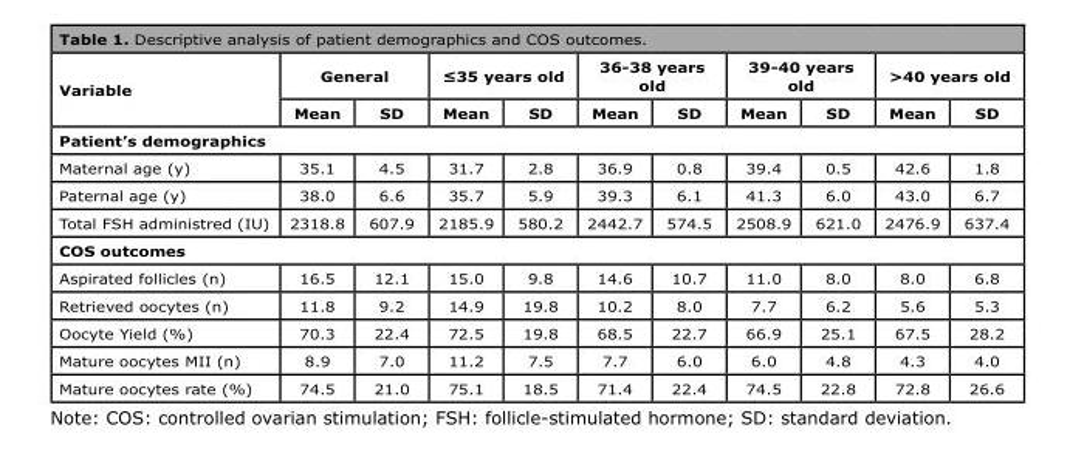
<table><thead><tr><td rowspan="2">Variable</td><td colspan="2">General</td><td colspan="2">≤35 years old</td><td colspan="2">36-38 years old</td><td colspan="2">39-40 years old</td><td colspan="2">&gt;40 years old</td></tr><tr><td>Mean</td><td>SD</td><td>Mean</td><td>SD</td><td>Mean</td><td>SD</td><td>Mean</td><td>SD</td><td>Mean</td><td>SD</td></tr></thead><tbody><tr><td colspan="11">Patient’s demographics</td></tr><tr><td>Maternal age (y)</td><td>35.1</td><td>4.5</td><td>31.7</td><td>2.8</td><td>36.9</td><td>0.8</td><td>39.4</td><td>0.5</td><td>42.6</td><td>1.8</td></tr><tr><td>Paternal age (y)</td><td>38.0</td><td>6.6</td><td>35.7</td><td>5.9</td><td>39.3</td><td>6.1</td><td>41.3</td><td>6.0</td><td>43.0</td><td>6.7</td></tr><tr><td>Total FSH administred (IU)</td><td>2318.8</td><td>607.9</td><td>2185.9</td><td>580.2</td><td>2442.7</td><td>574.5</td><td>2508.9</td><td>621.0</td><td>2476.9</td><td>637.4</td></tr><tr><td colspan="11">COS outcomes</td></tr><tr><td>Aspirated follicles (n)</td><td>16.5</td><td>12.1</td><td>15.0</td><td>9.8</td><td>14.6</td><td>10.7</td><td>11.0</td><td>8.0</td><td>8.0</td><td>6.8</td></tr><tr><td>Retrieved oocytes (n)</td><td>11.8</td><td>9.2</td><td>14.9</td><td>19.8</td><td>10.2</td><td>8.0</td><td>7.7</td><td>6.2</td><td>5.6</td><td>5.3</td></tr><tr><td>Oocyte Yield (%)</td><td>70.3</td><td>22.4</td><td>72.5</td><td>19.8</td><td>68.5</td><td>22.7</td><td>66.9</td><td>25.1</td><td>67.5</td><td>28.2</td></tr><tr><td>Mature oocytes MII (n)</td><td>8.9</td><td>7.0</td><td>11.2</td><td>7.5</td><td>7.7</td><td>6.0</td><td>6.0</td><td>4.8</td><td>4.3</td><td>4.0</td></tr><tr><td>Mature oocytes rate (%)</td><td>74.5</td><td>21.0</td><td>75.1</td><td>18.5</td><td>71.4</td><td>22.4</td><td>74.5</td><td>22.8</td><td>72.8</td><td>26.6</td></tr></tbody></table>